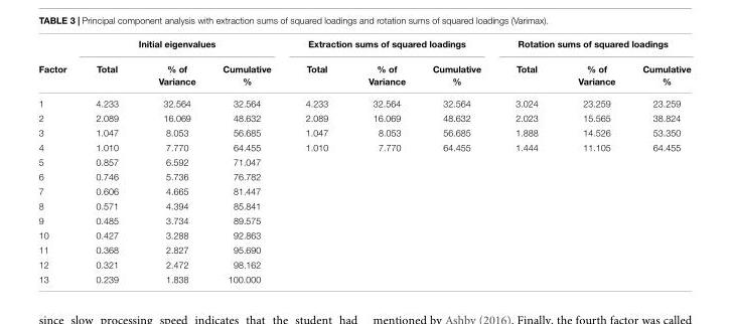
<table><thead><tr><td rowspan="2">Factor</td><td colspan="3">Initial eigenvalues</td><td colspan="3">Extraction sums of squared loadings</td><td colspan="3">Rotation sums of squared loadings</td></tr><tr><td>Total</td><td>% of Variance</td><td>Cumulative %</td><td>Total</td><td>% of Variance</td><td>Cumulative %</td><td>Total</td><td>% of Variance</td><td>Cumulative %</td></tr></thead><tbody><tr><td>1</td><td>4.233</td><td>32.564</td><td>32.564</td><td>4.233</td><td>32.564</td><td>32.564</td><td>3.024</td><td>23.259</td><td>23.259</td></tr><tr><td>2</td><td>2.089</td><td>16.069</td><td>48.632</td><td>2.089</td><td>16.069</td><td>48.632</td><td>2.023</td><td>15.565</td><td>38.824</td></tr><tr><td>3</td><td>1.047</td><td>8.053</td><td>56.685</td><td>1.047</td><td>8.053</td><td>56.685</td><td>1.888</td><td>14.526</td><td>53.350</td></tr><tr><td>4</td><td>1.010</td><td>7.770</td><td>64.455</td><td>1.010</td><td>7.770</td><td>64.455</td><td>1.444</td><td>11.105</td><td>64.455</td></tr><tr><td>5</td><td>0.857</td><td>6.592</td><td>71.047</td><td></td><td></td><td></td><td></td><td></td><td></td></tr><tr><td>6</td><td>0.746</td><td>5.736</td><td>76.782</td><td></td><td></td><td></td><td></td><td></td><td></td></tr><tr><td>7</td><td>0.606</td><td>4.665</td><td>81.447</td><td></td><td></td><td></td><td></td><td></td><td></td></tr><tr><td>8</td><td>0.571</td><td>4.394</td><td>85.841</td><td></td><td></td><td></td><td></td><td></td><td></td></tr><tr><td>9</td><td>0.485</td><td>3.734</td><td>89.575</td><td></td><td></td><td></td><td></td><td></td><td></td></tr><tr><td>10</td><td>0.427</td><td>3.288</td><td>92.863</td><td></td><td></td><td></td><td></td><td></td><td></td></tr><tr><td>11</td><td>0.368</td><td>2.827</td><td>95.690</td><td></td><td></td><td></td><td></td><td></td><td></td></tr><tr><td>12</td><td>0.321</td><td>2.472</td><td>98.162</td><td></td><td></td><td></td><td></td><td></td><td></td></tr><tr><td>13</td><td>0.239</td><td>1.838</td><td>100.000</td><td></td><td></td><td></td><td></td><td></td><td></td></tr></tbody></table>